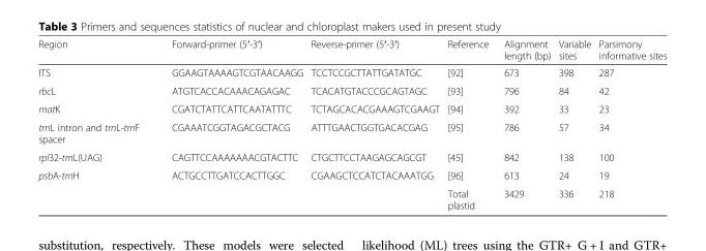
<table><thead><tr><td>Region</td><td>Forward-primer (5′-3′)</td><td>Reverse-primer (5′-3′)</td><td>Reference</td><td>Alignment length (bp)</td><td>Variable sites</td><td>Parsimony informative sites</td></tr></thead><tbody><tr><td>ITS</td><td>GGAAGTAAAAGTCGTAACAAGG</td><td>TCCTCCGCTTATTGATATGC</td><td>[92]</td><td>673</td><td>398</td><td>287</td></tr><tr><td>rbcL</td><td>ATGTCACCACAAACAGAGAC</td><td>TCACATGTACCCGCAGTAGC</td><td>[93]</td><td>796</td><td>84</td><td>42</td></tr><tr><td>matK</td><td>CGATCTATTCATTCAATATTTC</td><td>TCTAGCACACGAAAGTCGAAGT</td><td>[94]</td><td>392</td><td>33</td><td>23</td></tr><tr><td>trnL intron and trnL-trnF spacer</td><td>CGAAATCGGTAGACGCTACG</td><td>ATTTGAACTGGTGACACGAG</td><td>[95]</td><td>786</td><td>57</td><td>34</td></tr><tr><td>rpl32-trnL(UAG)</td><td>CAGTTCCAAAAAAACGTACTTC</td><td>CTGCTTCCTAAGAGCAGCGT</td><td>[45]</td><td>842</td><td>138</td><td>100</td></tr><tr><td rowspan="2">psbA-trnH</td><td>ACTGCCTTGATCCACTTGGC</td><td>CGAAGCTCCATCTACAAATGG</td><td>[96]</td><td>613</td><td>24</td><td>19</td></tr><tr><td></td><td></td><td>Total plastid</td><td>3429</td><td>336</td><td>218</td></tr></tbody></table>